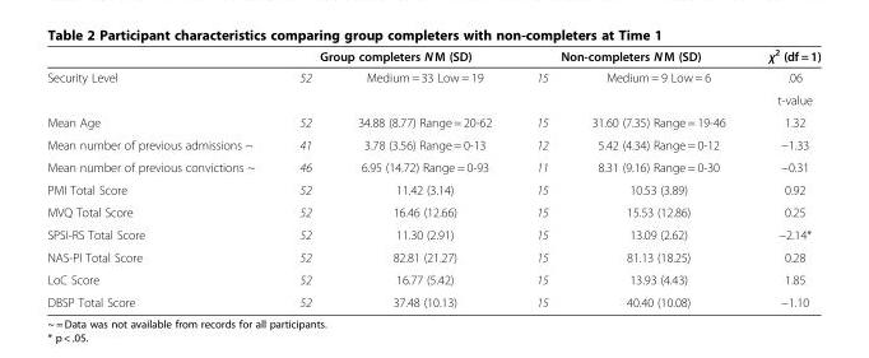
<table><thead><tr><td rowspan="2">Security Level</td><td colspan="2">Group completers N M (SD)</td><td colspan="2">Non-completers N M (SD)</td><td rowspan="2">χ<sup>2</sup> (df = 1) .06</td></tr><tr><td>52</td><td>Medium = 33 Low = 19</td><td>15</td><td>Medium = 9 Low = 6</td></tr></thead><tbody><tr><td></td><td></td><td></td><td></td><td></td><td>t-value</td></tr><tr><td>Mean Age</td><td>52</td><td>34.88 (8.77) Range = 20-62</td><td>15</td><td>31.60 (7.35) Range = 19-46</td><td>1.32</td></tr><tr><td>Mean number of previous admissions ~</td><td>41</td><td>3.78 (3.56) Range = 0-13</td><td>12</td><td>5.42 (4.34) Range = 0-12</td><td>−1.33</td></tr><tr><td>Mean number of previous convictions ~</td><td>46</td><td>6.95 (14.72) Range = 0-93</td><td>11</td><td>8.31 (9.16) Range = 0-30</td><td>−0.31</td></tr><tr><td>PMI Total Score</td><td>52</td><td>11.42 (3.14)</td><td>15</td><td>10.53 (3.89)</td><td>0.92</td></tr><tr><td>MVQ Total Score</td><td>52</td><td>16.46 (12.66)</td><td>15</td><td>15.53 (12.86)</td><td>0.25</td></tr><tr><td>SPSI-RS Total Score</td><td>52</td><td>11.30 (2.91)</td><td>15</td><td>13.09 (2.62)</td><td>−2.14*</td></tr><tr><td>NAS-PI Total Score</td><td>52</td><td>82.81 (21.27)</td><td>15</td><td>81.13 (18.25)</td><td>0.28</td></tr><tr><td>LoC Score</td><td>52</td><td>16.77 (5.42)</td><td>15</td><td>13.93 (4.43)</td><td>1.85</td></tr><tr><td>DBSP Total Score</td><td>52</td><td>37.48 (10.13)</td><td>15</td><td>40.40 (10.08)</td><td>−1.10</td></tr></tbody></table>